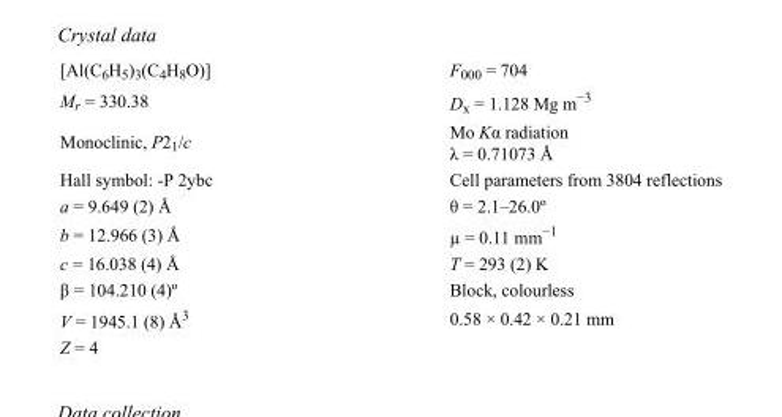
<table><tbody><tr><td>[Al(C<sub>6</sub>H<sub>5</sub>)<sub>3</sub>(C<sub>4</sub>H<sub>8</sub>O)]</td><td>F000 = 704</td></tr><tr><td>M<sub>r</sub> = 330.38</td><td>D<sub>x</sub> = 1.128 Mg m<sup>−3</sup></td></tr><tr><td>Monoclinic, P2<sub>1</sub>/c</td><td>Mo Kα radiation λ = 0.71073 Å</td></tr><tr><td>Hall symbol: -P 2ybc</td><td>Cell parameters from 3804 reflections</td></tr><tr><td>a = 9.649 (2) Å</td><td>θ = 2.1–26.0º</td></tr><tr><td>b = 12.966 (3) Å</td><td>µ = 0.11 mm<sup>−1</sup></td></tr><tr><td>c = 16.038 (4) Å</td><td>T = 293 (2) K</td></tr><tr><td>β = 104.210 (4)º</td><td>Block, colourless</td></tr><tr><td>V = 1945.1 (8) Å<sup>3</sup></td><td>0.58 × 0.42 × 0.21 mm</td></tr><tr><td>Z = 4</td><td></td></tr></tbody></table>